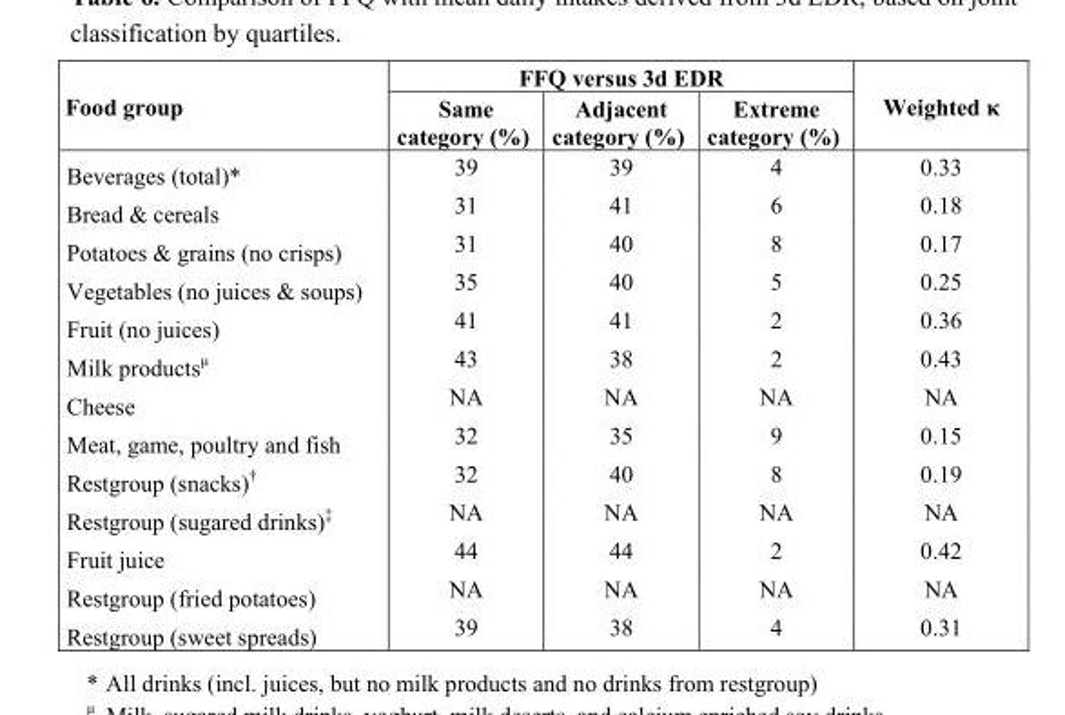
<table><thead><tr><td rowspan="2">Food group</td><td colspan="3">FFQ versus 3d EDR</td><td rowspan="2">Weighted κ</td></tr><tr><td>Same category (%)</td><td>Adjacent category (%)</td><td>Extreme category (%)</td></tr></thead><tbody><tr><td>Beverages (total)*</td><td>39</td><td>39</td><td>4</td><td>0.33</td></tr><tr><td>Bread &amp; cereals</td><td>31</td><td>41</td><td>6</td><td>0.18</td></tr><tr><td>Potatoes &amp; grains (no crisps)</td><td>31</td><td>40</td><td>8</td><td>0.17</td></tr><tr><td>Vegetables (no juices &amp; soups)</td><td>35</td><td>40</td><td>5</td><td>0.25</td></tr><tr><td>Fruit (no juices)</td><td>41</td><td>41</td><td>2</td><td>0.36</td></tr><tr><td>Milk productsµ</td><td>43</td><td>38</td><td>2</td><td>0.43</td></tr><tr><td>Cheese</td><td>NA</td><td>NA</td><td>NA</td><td>NA</td></tr><tr><td>Meat, game, poultry and fish</td><td>32</td><td>35</td><td>9</td><td>0.15</td></tr><tr><td>Restgroup (snacks)†</td><td>32</td><td>40</td><td>8</td><td>0.19</td></tr><tr><td>Restgroup (sugared drinks)‡</td><td>NA</td><td>NA</td><td>NA</td><td>NA</td></tr><tr><td>Fruit juice</td><td>44</td><td>44</td><td>2</td><td>0.42</td></tr><tr><td>Restgroup (fried potatoes)</td><td>NA</td><td>NA</td><td>NA</td><td>NA</td></tr><tr><td>Restgroup (sweet spreads)</td><td>39</td><td>38</td><td>4</td><td>0.31</td></tr></tbody></table>